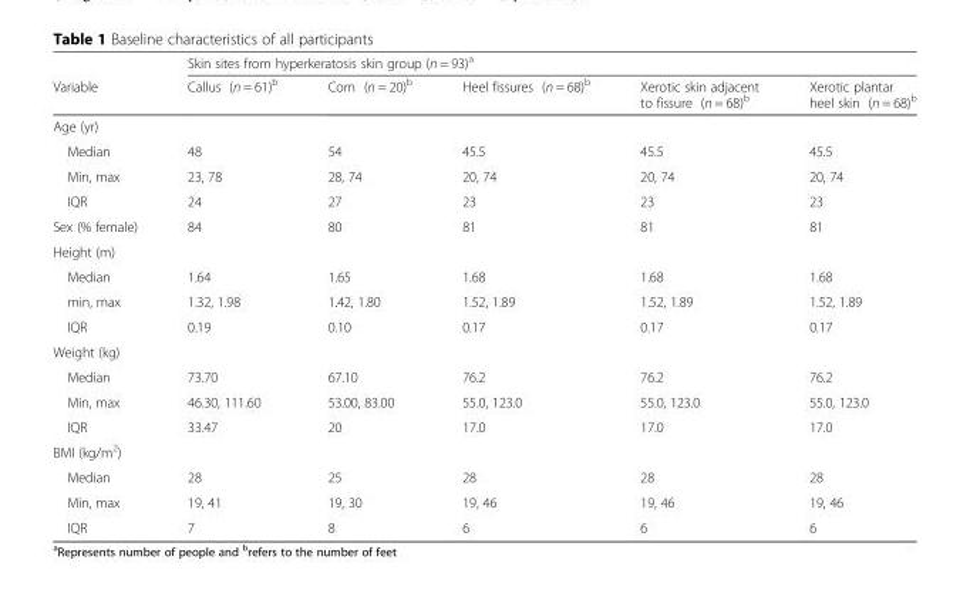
<table><thead><tr><td rowspan="2">Variable</td><td colspan="5">Skin sites from hyperkeratosis skin group (n = 93)<sup>a</sup></td></tr><tr><td>Callus (n = 61)<sup>b</sup></td><td>Corn (n = 20)<sup>b</sup></td><td>Heel fissures (n = 68)<sup>b</sup></td><td>Xerotic skin adjacent to fissure (n = 68)<sup>b</sup></td><td>Xerotic plantar heel skin (n = 68)<sup>b</sup></td></tr></thead><tbody><tr><td colspan="6">Age (yr)</td></tr><tr><td>Median</td><td>48</td><td>54</td><td>45.5</td><td>45.5</td><td>45.5</td></tr><tr><td>Min, max</td><td>23, 78</td><td>28, 74</td><td>20, 74</td><td>20, 74</td><td>20, 74</td></tr><tr><td>IQR</td><td>24</td><td>27</td><td>23</td><td>23</td><td>23</td></tr><tr><td>Sex (% female)</td><td>84</td><td>80</td><td>81</td><td>81</td><td>81</td></tr><tr><td colspan="6">Height (m)</td></tr><tr><td>Median</td><td>1.64</td><td>1.65</td><td>1.68</td><td>1.68</td><td>1.68</td></tr><tr><td>min, max</td><td>1.32, 1.98</td><td>1.42, 1.80</td><td>1.52, 1.89</td><td>1.52, 1.89</td><td>1.52, 1.89</td></tr><tr><td>IQR</td><td>0.19</td><td>0.10</td><td>0.17</td><td>0.17</td><td>0.17</td></tr><tr><td colspan="6">Weight (kg)</td></tr><tr><td>Median</td><td>73.70</td><td>67.10</td><td>76.2</td><td>76.2</td><td>76.2</td></tr><tr><td>Min, max</td><td>46.30, 111.60</td><td>53.00, 83.00</td><td>55.0, 123.0</td><td>55.0, 123.0</td><td>55.0, 123.0</td></tr><tr><td>IQR</td><td>33.47</td><td>20</td><td>17.0</td><td>17.0</td><td>17.0</td></tr><tr><td colspan="6">BMI (kg/m<sup>2</sup>)</td></tr><tr><td>Median</td><td>28</td><td>25</td><td>28</td><td>28</td><td>28</td></tr><tr><td>Min, max</td><td>19, 41</td><td>19, 30</td><td>19, 46</td><td>19, 46</td><td>19, 46</td></tr><tr><td>IQR</td><td>7</td><td>8</td><td>6</td><td>6</td><td>6</td></tr></tbody></table>